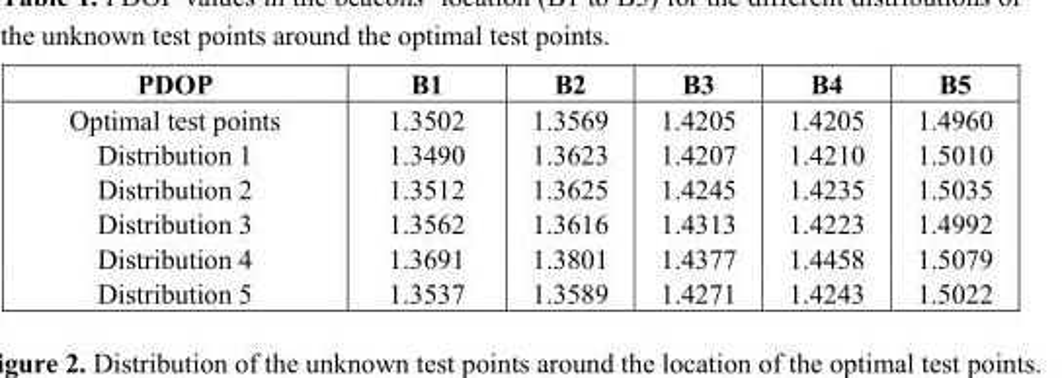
<table><thead><tr><td>PDOP</td><td>B1</td><td>B2</td><td>B3</td><td>B4</td><td>B5</td></tr></thead><tbody><tr><td>Optimal test points</td><td>1.3502</td><td>1.3569</td><td>1.4205</td><td>1.4205</td><td>1.4960</td></tr><tr><td>Distribution 1</td><td>1.3490</td><td>1.3623</td><td>1.4207</td><td>1.4210</td><td>1.5010</td></tr><tr><td>Distribution 2</td><td>1.3512</td><td>1.3625</td><td>1.4245</td><td>1.4235</td><td>1.5035</td></tr><tr><td>Distribution 3</td><td>1.3562</td><td>1.3616</td><td>1.4313</td><td>1.4223</td><td>1.4992</td></tr><tr><td>Distribution 4</td><td>1.3691</td><td>1.3801</td><td>1.4377</td><td>1.4458</td><td>1.5079</td></tr><tr><td>Distribution 5</td><td>1.3537</td><td>1.3589</td><td>1.4271</td><td>1.4243</td><td>1.5022</td></tr></tbody></table>